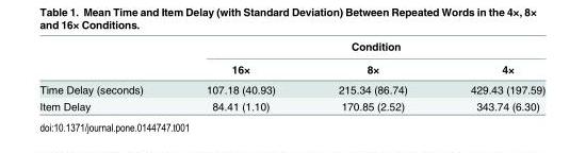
<table><thead><tr><td rowspan="2"></td><td colspan="3">Condition</td></tr><tr><td>16×</td><td>8×</td><td>4×</td></tr></thead><tbody><tr><td>Time Delay (seconds)</td><td>107.18 (40.93)</td><td>215.34 (86.74)</td><td>429.43 (197.59)</td></tr><tr><td>Item Delay</td><td>84.41 (1.10)</td><td>170.85 (2.52)</td><td>343.74 (6.30)</td></tr></tbody></table>